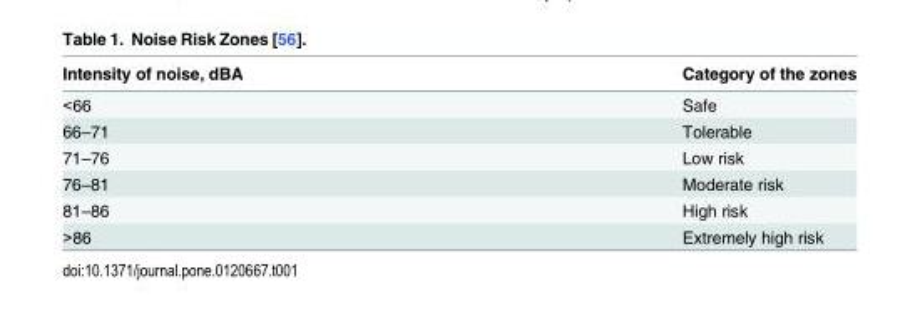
<table><thead><tr><td>Intensity of noise, dBA</td><td>Category of the zones</td></tr></thead><tbody><tr><td>&lt;66</td><td>Safe</td></tr><tr><td>66–71</td><td>Tolerable</td></tr><tr><td>71–76</td><td>Low risk</td></tr><tr><td>76–81</td><td>Moderate risk</td></tr><tr><td>81–86</td><td>High risk</td></tr><tr><td>&gt;86</td><td>Extremely high risk</td></tr></tbody></table>